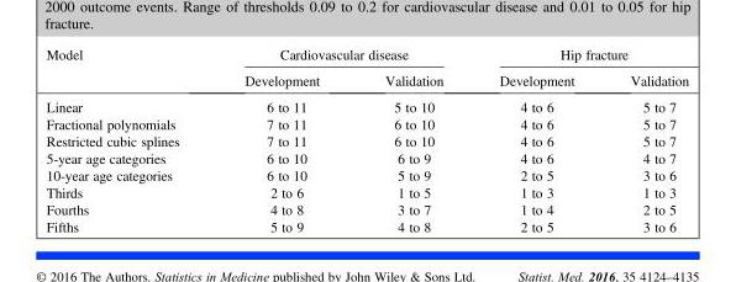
<table><thead><tr><td rowspan="2">Model</td><td colspan="2">Cardiovascular disease</td><td colspan="2">Hip fracture</td></tr><tr><td>Development</td><td>Validation</td><td>Development</td><td>Validation</td></tr></thead><tbody><tr><td>Linear</td><td>6 to 11</td><td>5 to 10</td><td>4 to 6</td><td>5 to 7</td></tr><tr><td>Fractional polynomials</td><td>7 to 11</td><td>6 to 10</td><td>4 to 6</td><td>5 to 7</td></tr><tr><td>Restricted cubic splines</td><td>7 to 11</td><td>6 to 10</td><td>4 to 6</td><td>5 to 7</td></tr><tr><td>5-year age categories</td><td>6 to 10</td><td>6 to 9</td><td>4 to 6</td><td>4 to 7</td></tr><tr><td>10-year age categories</td><td>6 to 10</td><td>5 to 9</td><td>2 to 5</td><td>3 to 6</td></tr><tr><td>Thirds</td><td>2 to 6</td><td>1 to 5</td><td>1 to 3</td><td>1 to 3</td></tr><tr><td>Fourths</td><td>4 to 8</td><td>3 to 7</td><td>1 to 4</td><td>2 to 5</td></tr><tr><td>Fifths</td><td>5 to 9</td><td>4 to 8</td><td>2 to 5</td><td>3 to 6</td></tr></tbody></table>